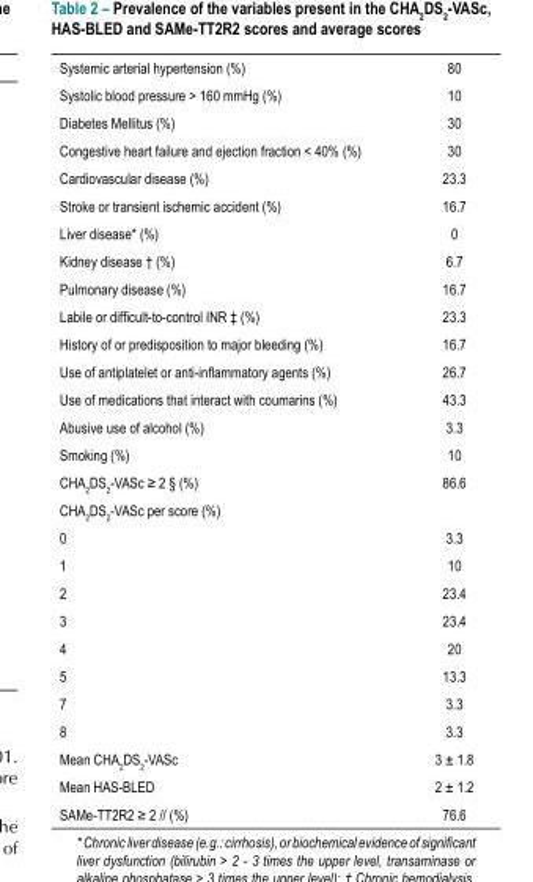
<table><tbody><tr><td>Systemic arterial hypertension (%)</td><td>80</td></tr><tr><td>Systolic blood pressure &gt; 160 mmHg (%)</td><td>10</td></tr><tr><td>Diabetes Mellitus (%)</td><td>30</td></tr><tr><td>Congestive heart failure and ejection fraction &lt; 40% (%)</td><td>30</td></tr><tr><td>Cardiovascular disease (%)</td><td>23.3</td></tr><tr><td>Stroke or transient ischemic accident (%)</td><td>16.7</td></tr><tr><td>Liver disease* (%)</td><td>0</td></tr><tr><td>Kidney disease † (%)</td><td>6.7</td></tr><tr><td>Pulmonary disease (%)</td><td>16.7</td></tr><tr><td>Labile or difficult-to-control INR ‡ (%)</td><td>23.3</td></tr><tr><td>History of or predisposition to major bleeding (%)</td><td>16.7</td></tr><tr><td>Use of antiplatelet or anti-inflammatory agents (%)</td><td>26.7</td></tr><tr><td>Use of medications that interact with coumarins (%)</td><td>43.3</td></tr><tr><td>Abusive use of alcohol (%)</td><td>3.3</td></tr><tr><td>Smoking (%)</td><td>10</td></tr><tr><td>CHA<sub>2</sub>DS<sub>2</sub>-VASc ≥ 2 § (%)</td><td>86.6</td></tr><tr><td colspan="2">CHA<sub>2</sub>DS<sub>2</sub>-VASc per score (%)</td></tr><tr><td>0</td><td>3.3</td></tr><tr><td>1</td><td>10</td></tr><tr><td>2</td><td>23.4</td></tr><tr><td>3</td><td>23.4</td></tr><tr><td>4</td><td>20</td></tr><tr><td>5</td><td>13.3</td></tr><tr><td>7</td><td>3.3</td></tr><tr><td>8</td><td>3.3</td></tr><tr><td>Mean CHA<sub>2</sub>DS<sub>2</sub>-VASc</td><td>3 ± 1.8</td></tr><tr><td>Mean HAS-BLED</td><td>2 ± 1.2</td></tr><tr><td>SAMe-TT2R2 ≥ 2 // (%)</td><td>76.6</td></tr></tbody></table>